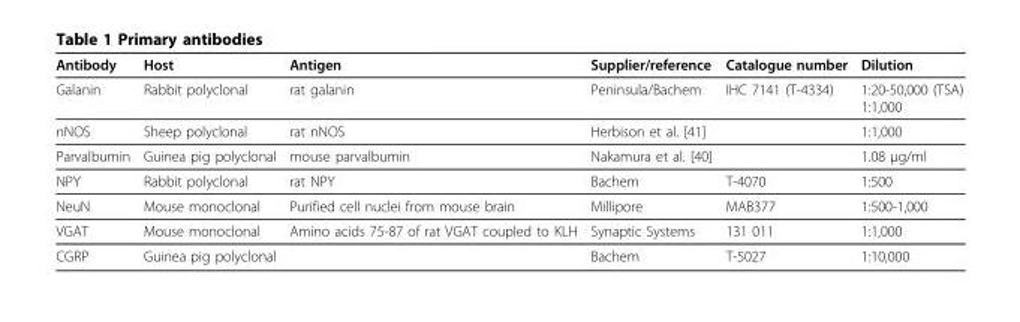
<table><thead><tr><td>Antibody</td><td>Host</td><td>Antigen</td><td>Supplier/reference</td><td>Catalogue number</td><td>Dilution</td></tr></thead><tbody><tr><td>Galanin</td><td>Rabbit polyclonal</td><td>rat galanin</td><td>Peninsula/Bachem</td><td>IHC 7141 (T-4334)</td><td>1:20-50,000 (TSA) 1:1,000</td></tr><tr><td>nNOS</td><td>Sheep polyclonal</td><td>rat nNOS</td><td>Herbison et al. [41]</td><td></td><td>1:1,000</td></tr><tr><td>Parvalbumin</td><td>Guinea pig polyclonal</td><td>mouse parvalbumin</td><td>Nakamura et al. [40]</td><td></td><td>1.08 μg/ml</td></tr><tr><td>NPY</td><td>Rabbit polyclonal</td><td>rat NPY</td><td>Bachem</td><td>T-4070</td><td>1:500</td></tr><tr><td>NeuN</td><td>Mouse monoclonal</td><td>Purified cell nuclei from mouse brain</td><td>Millipore</td><td>MAB377</td><td>1:500-1,000</td></tr><tr><td>VGAT</td><td>Mouse monoclonal</td><td>Amino acids 75-87 of rat VGAT coupled to KLH</td><td>Synaptic Systems</td><td>131 011</td><td>1:1,000</td></tr><tr><td>CGRP</td><td>Guinea pig polyclonal</td><td></td><td>Bachem</td><td>T-5027</td><td>1:10,000</td></tr></tbody></table>